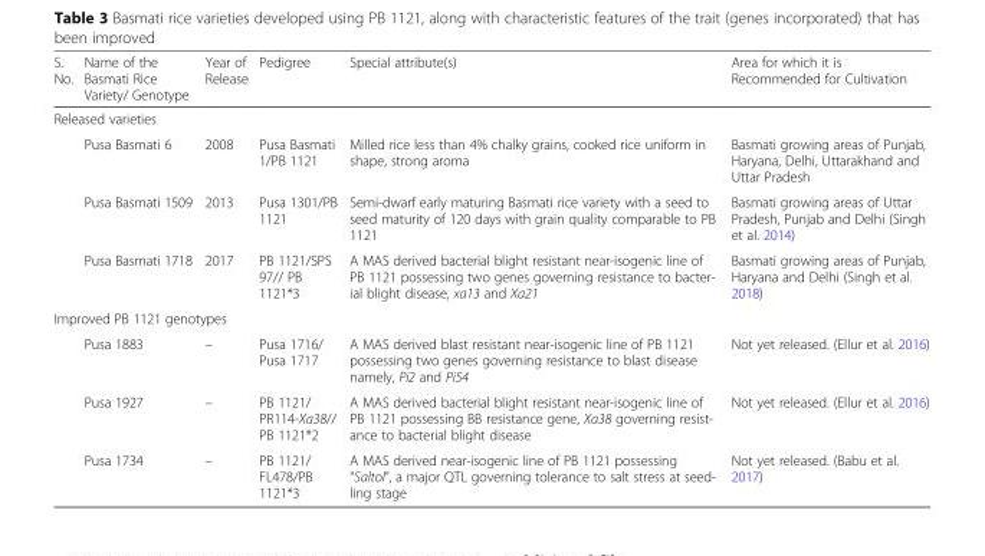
<table><thead><tr><td>S. No.</td><td>Name of the Basmati Rice Variety/ Genotype</td><td>Year of Release</td><td>Pedigree</td><td>Special attribute(s)</td><td>Area for which it is Recommended for Cultivation</td></tr></thead><tbody><tr><td colspan="6">Released varieties</td></tr><tr><td></td><td>Pusa Basmati 6</td><td>2008</td><td>Pusa Basmati 1/PB 1121</td><td>Milled rice less than 4% chalky grains, cooked rice uniform in shape, strong aroma</td><td>Basmati growing areas of Punjab, Haryana, Delhi, Uttarakhand and Uttar Pradesh</td></tr><tr><td></td><td>Pusa Basmati 1509</td><td>2013</td><td>Pusa 1301/PB 1121</td><td>Semi-dwarf early maturing Basmati rice variety with a seed to seed maturity of 120 days with grain quality comparable to PB 1121</td><td>Basmati growing areas of Uttar Pradesh, Punjab and Delhi (Singh et al. 2014)</td></tr><tr><td></td><td>Pusa Basmati 1718</td><td>2017</td><td>PB 1121/SPS 97// PB 1121*3</td><td>A MAS derived bacterial blight resistant near-isogenic line of PB 1121 possessing two genes governing resistance to bacter- ial blight disease, xa13 and Xa21</td><td>Basmati growing areas of Punjab, Haryana and Delhi (Singh et al. 2018)</td></tr><tr><td colspan="6">Improved PB 1121 genotypes</td></tr><tr><td></td><td>Pusa 1883</td><td>–</td><td>Pusa 1716/ Pusa 1717</td><td>A MAS derived blast resistant near-isogenic line of PB 1121 possessing two genes governing resistance to blast disease namely, Pi2 and Pi54</td><td>Not yet released. (Ellur et al. 2016)</td></tr><tr><td></td><td>Pusa 1927</td><td>–</td><td>PB 1121/ PR114-Xa38// PB 1121*2</td><td>A MAS derived bacterial blight resistant near-isogenic line of PB 1121 possessing BB resistance gene, Xa38 governing resist- ance to bacterial blight disease</td><td>Not yet released. (Ellur et al. 2016)</td></tr><tr><td></td><td>Pusa 1734</td><td>–</td><td>PB 1121/ FL478/PB 1121*3</td><td>A MAS derived near-isogenic line of PB 1121 possessing “Saltol”, a major QTL governing tolerance to salt stress at seed- ling stage</td><td>Not yet released. (Babu et al. 2017)</td></tr></tbody></table>